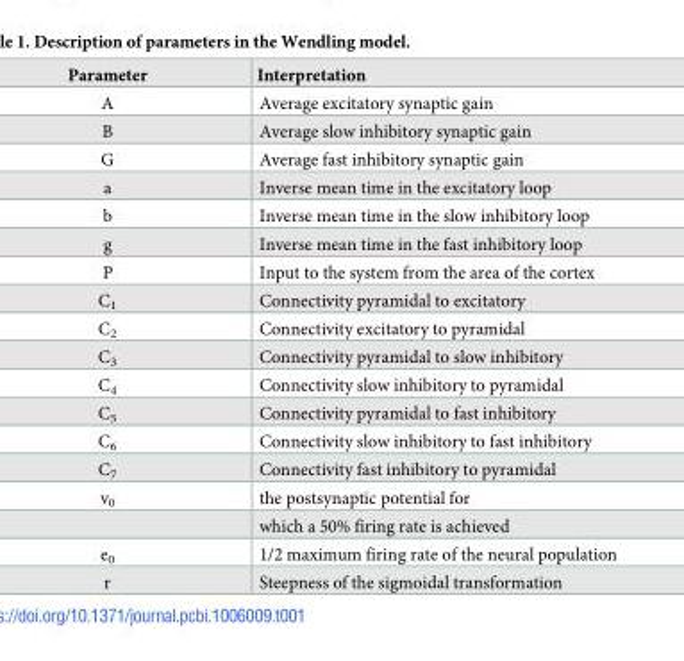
<table><thead><tr><td>Parameter</td><td>Interpretation</td></tr></thead><tbody><tr><td>A</td><td>Average excitatory synaptic gain</td></tr><tr><td>B</td><td>Average slow inhibitory synaptic gain</td></tr><tr><td>G</td><td>Average fast inhibitory synaptic gain</td></tr><tr><td>a</td><td>Inverse mean time in the excitatory loop</td></tr><tr><td>b</td><td>Inverse mean time in the slow inhibitory loop</td></tr><tr><td>g</td><td>Inverse mean time in the fast inhibitory loop</td></tr><tr><td>P</td><td>Input to the system from the area of the cortex</td></tr><tr><td>C<sub>1</sub></td><td>Connectivity pyramidal to excitatory</td></tr><tr><td>C<sub>2</sub></td><td>Connectivity excitatory to pyramidal</td></tr><tr><td>C<sub>3</sub></td><td>Connectivity pyramidal to slow inhibitory</td></tr><tr><td>C<sub>4</sub></td><td>Connectivity slow inhibitory to pyramidal</td></tr><tr><td>C<sub>5</sub></td><td>Connectivity pyramidal to fast inhibitory</td></tr><tr><td>C<sub>6</sub></td><td>Connectivity slow inhibitory to fast inhibitory</td></tr><tr><td>C<sub>7</sub></td><td>Connectivity fast inhibitory to pyramidal</td></tr><tr><td rowspan="2">v<sub>0</sub></td><td>the postsynaptic potential for</td></tr><tr><td>which a 50% firing rate is achieved</td></tr><tr><td>e<sub>0</sub></td><td>1/2 maximum firing rate of the neural population</td></tr><tr><td>r</td><td>Steepness of the sigmoidal transformation</td></tr></tbody></table>